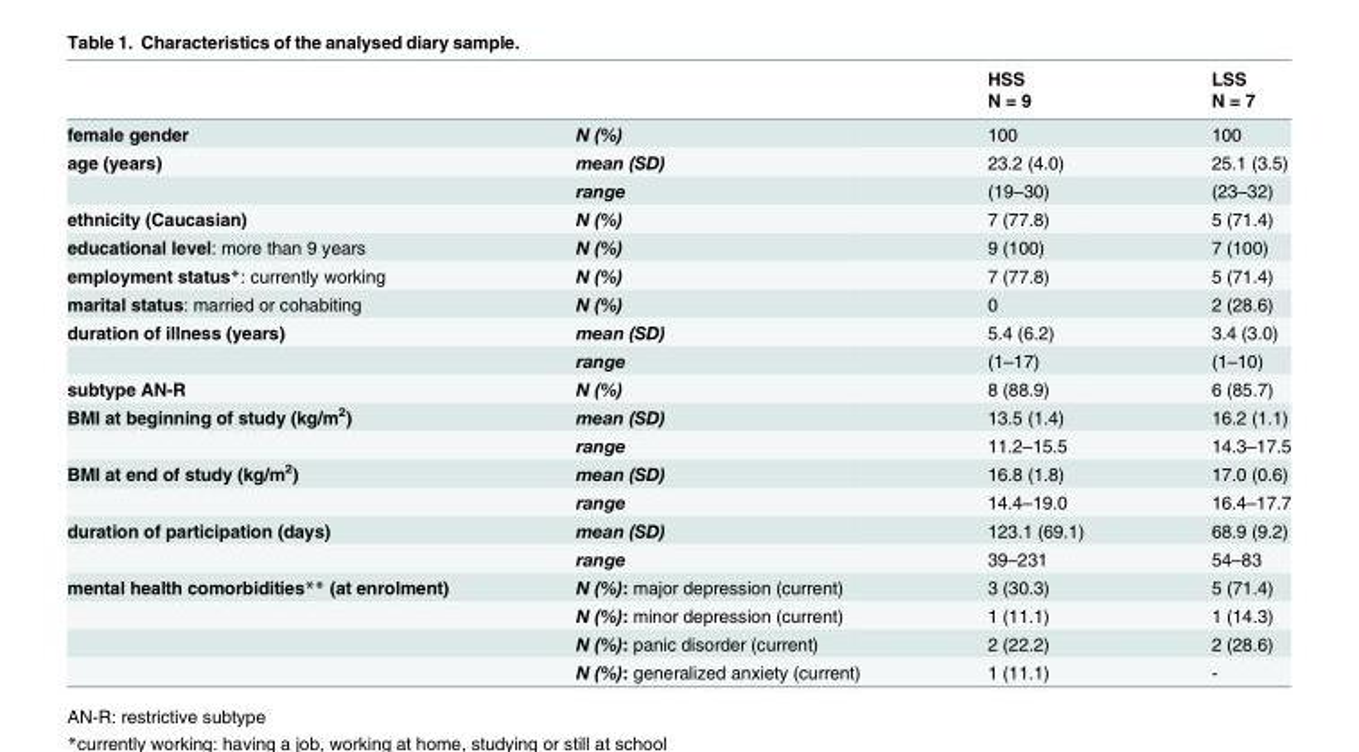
<table><thead><tr><td rowspan="2"></td><td rowspan="2"></td><td rowspan="2">HSS N = 9</td><td rowspan="2">LSS N = 7</td></tr><tr></tr></thead><tbody><tr><td>female gender</td><td>N (%)</td><td>100</td><td>100</td></tr><tr><td rowspan="2">age (years)</td><td>mean (SD)</td><td>23.2 (4.0)</td><td>25.1 (3.5)</td></tr><tr><td>range</td><td>(19–30)</td><td>(23–32)</td></tr><tr><td>ethnicity (Caucasian)</td><td>N (%)</td><td>7 (77.8)</td><td>5 (71.4)</td></tr><tr><td>educational level: more than 9 years</td><td>N (%)</td><td>9 (100)</td><td>7 (100)</td></tr><tr><td>employment status*: currently working</td><td>N (%)</td><td>7 (77.8)</td><td>5 (71.4)</td></tr><tr><td>marital status: married or cohabiting</td><td>N (%)</td><td>0</td><td>2 (28.6)</td></tr><tr><td rowspan="2">duration of illness (years)</td><td>mean (SD)</td><td>5.4 (6.2)</td><td>3.4 (3.0)</td></tr><tr><td>range</td><td>(1–17)</td><td>(1–10)</td></tr><tr><td>subtype AN-R</td><td>N (%)</td><td>8 (88.9)</td><td>6 (85.7)</td></tr><tr><td rowspan="2">BMI at beginning of study (kg/m<sup>2</sup>)</td><td>mean (SD)</td><td>13.5 (1.4)</td><td>16.2 (1.1)</td></tr><tr><td>range</td><td>11.2–15.5</td><td>14.3–17.5</td></tr><tr><td rowspan="2">BMI at end of study (kg/m<sup>2</sup>)</td><td>mean (SD)</td><td>16.8 (1.8)</td><td>17.0 (0.6)</td></tr><tr><td>range</td><td>14.4–19.0</td><td>16.4–17.7</td></tr><tr><td rowspan="2">duration of participation (days)</td><td>mean (SD)</td><td>123.1 (69.1)</td><td>68.9 (9.2)</td></tr><tr><td>range</td><td>39–231</td><td>54–83</td></tr><tr><td rowspan="4">mental health comorbidities** (at enrolment)</td><td>N (%): major depression (current)</td><td>3 (30.3)</td><td>5 (71.4)</td></tr><tr><td>N (%): minor depression (current)</td><td>1 (11.1)</td><td>1 (14.3)</td></tr><tr><td>N (%): panic disorder (current)</td><td>2 (22.2)</td><td>2 (28.6)</td></tr><tr><td>N (%): generalized anxiety (current)</td><td>1 (11.1)</td><td>-</td></tr></tbody></table>